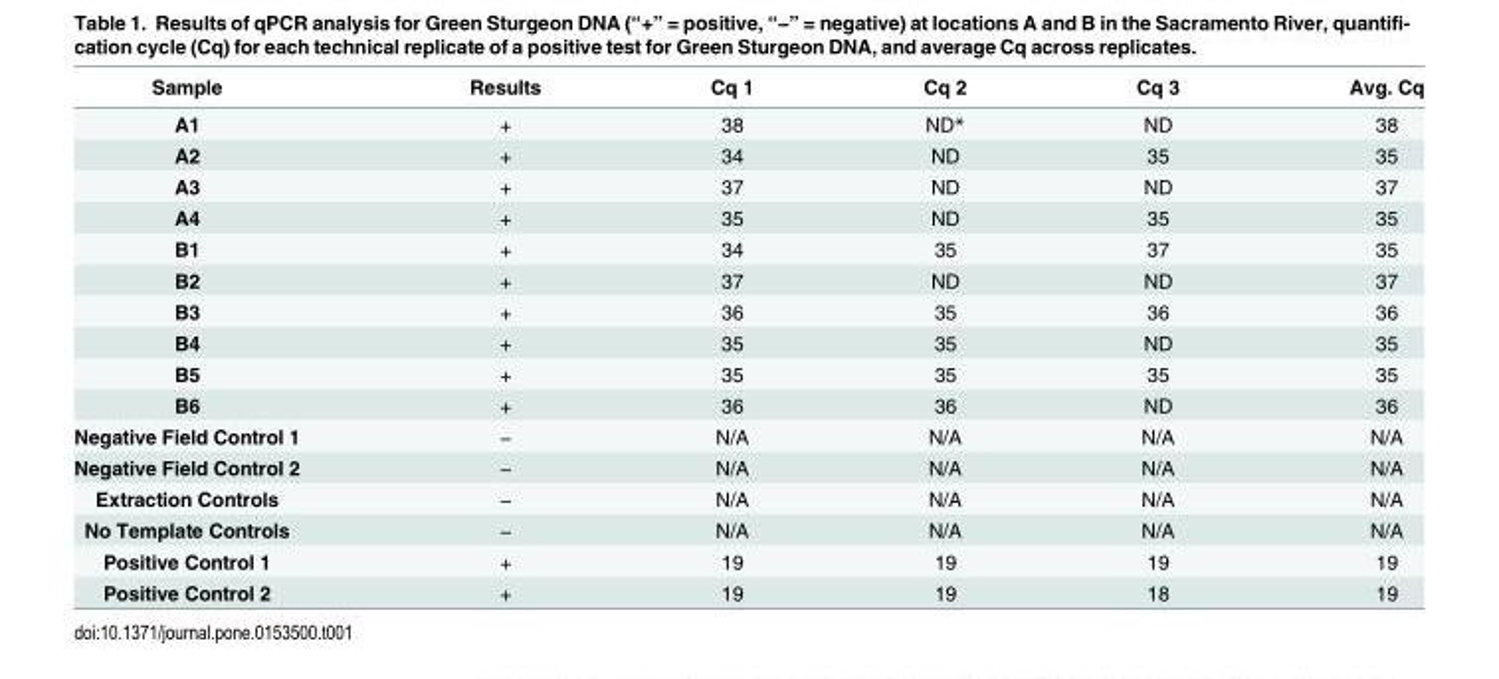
<table><thead><tr><td>Sample</td><td>Results</td><td>Cq 1</td><td>Cq 2</td><td>Cq 3</td><td>Avg. Cq</td></tr></thead><tbody><tr><td>A1</td><td>+</td><td>38</td><td>ND*</td><td>ND</td><td>38</td></tr><tr><td>A2</td><td>+</td><td>34</td><td>ND</td><td>35</td><td>35</td></tr><tr><td>A3</td><td>+</td><td>37</td><td>ND</td><td>ND</td><td>37</td></tr><tr><td>A4</td><td>+</td><td>35</td><td>ND</td><td>35</td><td>35</td></tr><tr><td>B1</td><td>+</td><td>34</td><td>35</td><td>37</td><td>35</td></tr><tr><td>B2</td><td>+</td><td>37</td><td>ND</td><td>ND</td><td>37</td></tr><tr><td>B3</td><td>+</td><td>36</td><td>35</td><td>36</td><td>36</td></tr><tr><td>B4</td><td>+</td><td>35</td><td>35</td><td>ND</td><td>35</td></tr><tr><td>B5</td><td>+</td><td>35</td><td>35</td><td>35</td><td>35</td></tr><tr><td>B6</td><td>+</td><td>36</td><td>36</td><td>ND</td><td>36</td></tr><tr><td>Negative Field Control 1</td><td>−</td><td>N/A</td><td>N/A</td><td>N/A</td><td>N/A</td></tr><tr><td>Negative Field Control 2</td><td>−</td><td>N/A</td><td>N/A</td><td>N/A</td><td>N/A</td></tr><tr><td>Extraction Controls</td><td>−</td><td>N/A</td><td>N/A</td><td>N/A</td><td>N/A</td></tr><tr><td>No Template Controls</td><td>−</td><td>N/A</td><td>N/A</td><td>N/A</td><td>N/A</td></tr><tr><td>Positive Control 1</td><td>+</td><td>19</td><td>19</td><td>19</td><td>19</td></tr><tr><td>Positive Control 2</td><td>+</td><td>19</td><td>19</td><td>18</td><td>19</td></tr></tbody></table>